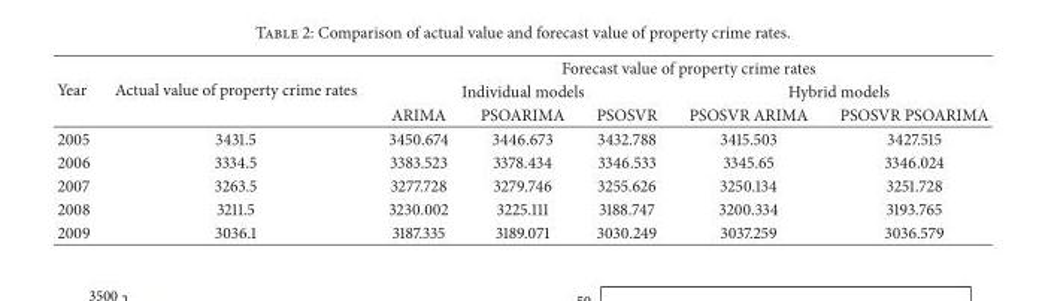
<table><thead><tr><td rowspan="3">Year</td><td rowspan="3">Actual value of property crime rates</td><td colspan="5">Forecast value of property crime rates</td></tr><tr><td colspan="3">Individual models</td><td colspan="2">Hybrid models</td></tr><tr><td>ARIMA</td><td>PSOARIMA</td><td>PSOSVR</td><td>PSOSVR ARIMA</td><td>PSOSVR PSOARIMA</td></tr></thead><tbody><tr><td>2005</td><td>3431.5</td><td>3450.674</td><td>3446.673</td><td>3432.788</td><td>3415.503</td><td>3427.515</td></tr><tr><td>2006</td><td>3334.5</td><td>3383.523</td><td>3378.434</td><td>3346.533</td><td>3345.65</td><td>3346.024</td></tr><tr><td>2007</td><td>3263.5</td><td>3277.728</td><td>3279.746</td><td>3255.626</td><td>3250.134</td><td>3251.728</td></tr><tr><td>2008</td><td>3211.5</td><td>3230.002</td><td>3225.111</td><td>3188.747</td><td>3200.334</td><td>3193.765</td></tr><tr><td>2009</td><td>3036.1</td><td>3187.335</td><td>3189.071</td><td>3030.249</td><td>3037.259</td><td>3036.579</td></tr></tbody></table>